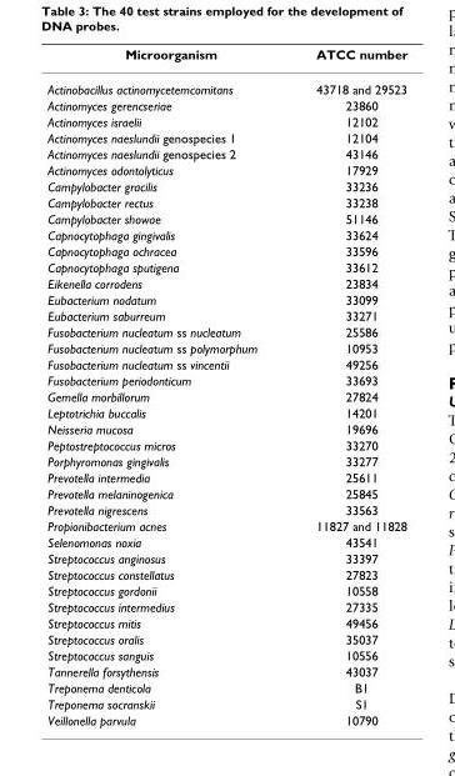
<table><thead><tr><td>Microorganism</td><td>ATCC number</td></tr></thead><tbody><tr><td>Actinobacillus actinomycetemcomitans</td><td>43718 and 29523</td></tr><tr><td>Actinomyces gerencseriae</td><td>23860</td></tr><tr><td>Actinomyces israelii</td><td>12102</td></tr><tr><td>Actinomyces naeslundii genospecies 1</td><td>12104</td></tr><tr><td>Actinomyces naeslundii genospecies 2</td><td>43146</td></tr><tr><td>Actinomyces odontolyticus</td><td>17929</td></tr><tr><td>Campylobacter gracilis</td><td>33236</td></tr><tr><td>Campylobacter rectus</td><td>33238</td></tr><tr><td>Campylobacter showae</td><td>51146</td></tr><tr><td>Capnocytophaga gingivalis</td><td>33624</td></tr><tr><td>Capnocytophaga ochracea</td><td>33596</td></tr><tr><td>Capnocytophaga sputigena</td><td>33612</td></tr><tr><td>Eikenella corrodens</td><td>23834</td></tr><tr><td>Eubacterium nodatum</td><td>33099</td></tr><tr><td>Eubacterium saburreum</td><td>33271</td></tr><tr><td>Fusobacterium nucleatum ss nucleatum</td><td>25586</td></tr><tr><td>Fusobacterium nucleatum ss polymorphum</td><td>10953</td></tr><tr><td>Fusobacterium nucleatum ss vincentii</td><td>49256</td></tr><tr><td>Fusobacterium periodonticum</td><td>33693</td></tr><tr><td>Gemella morbillorum</td><td>27824</td></tr><tr><td>Leptotrichia buccalis</td><td>14201</td></tr><tr><td>Neisseria mucosa</td><td>19696</td></tr><tr><td>Peptostreptococcus micros</td><td>33270</td></tr><tr><td>Porphyromonas gingivalis</td><td>33277</td></tr><tr><td>Prevotella intermedia</td><td>25611</td></tr><tr><td>Prevotella melaninogenica</td><td>25845</td></tr><tr><td>Prevotella nigrescens</td><td>33563</td></tr><tr><td>Propionibacterium acnes</td><td>11827 and 11828</td></tr><tr><td>Selenomonas noxia</td><td>43541</td></tr><tr><td>Streptococcus anginosus</td><td>33397</td></tr><tr><td>Streptococcus constellatus</td><td>27823</td></tr><tr><td>Streptococcus gordonii</td><td>10558</td></tr><tr><td>Streptococcus intermedius</td><td>27335</td></tr><tr><td>Streptococcus mitis</td><td>49456</td></tr><tr><td>Streptococcus oralis</td><td>35037</td></tr><tr><td>Streptococcus sanguis</td><td>10556</td></tr><tr><td>Tannerella forsythensis</td><td>43037</td></tr><tr><td>Treponema denticola</td><td>B1</td></tr><tr><td>Treponema socranskii</td><td>S1</td></tr><tr><td>Veillonella parvula</td><td>10790</td></tr></tbody></table>